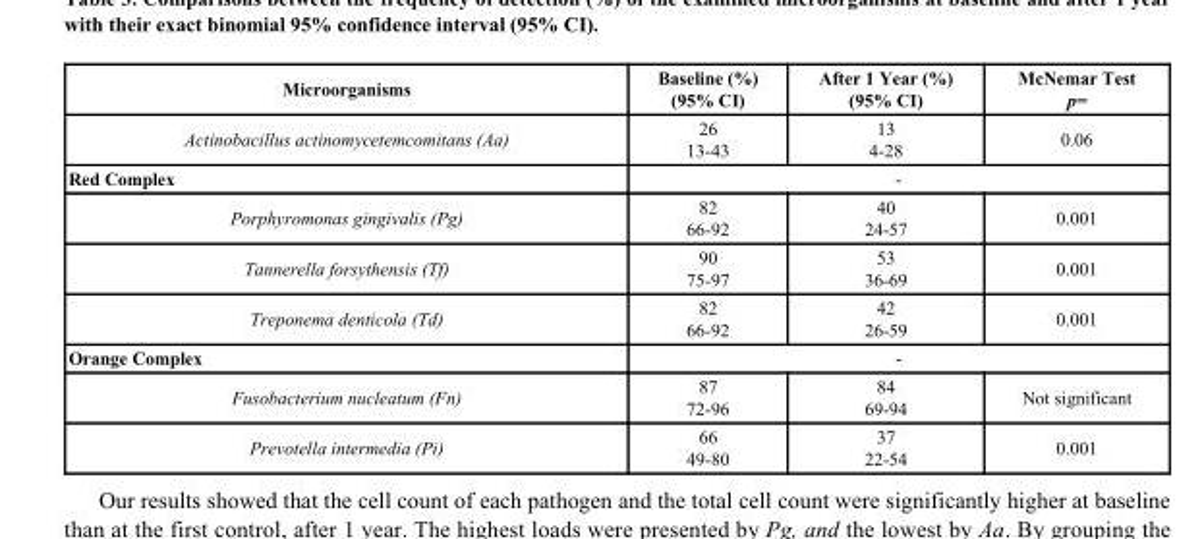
<table><thead><tr><td>Microorganisms</td><td>Baseline (%) (95% CI)</td><td>After 1 Year (%) (95% CI)</td><td>McNemar Test p=</td></tr></thead><tbody><tr><td>Actinobacillus actinomycetemcomitans (Aa)</td><td>26 13-43</td><td>13 4-28</td><td>0.06</td></tr><tr><td>Red Complex</td><td colspan="3">-</td></tr><tr><td>Porphyromonas gingivalis (Pg)</td><td>82 66-92</td><td>40 24-57</td><td>0.001</td></tr><tr><td>Tannerella forsythensis (Tf)</td><td>90 75-97</td><td>53 36-69</td><td>0.001</td></tr><tr><td>Treponema denticola (Td)</td><td>82 66-92</td><td>42 26-59</td><td>0.001</td></tr><tr><td>Orange Complex</td><td colspan="3">-</td></tr><tr><td>Fusobacterium nucleatum (Fn)</td><td>87 72-96</td><td>84 69-94</td><td>Not significant</td></tr><tr><td>Prevotella intermedia (Pi)</td><td>66 49-80</td><td>37 22-54</td><td>0.001</td></tr></tbody></table>